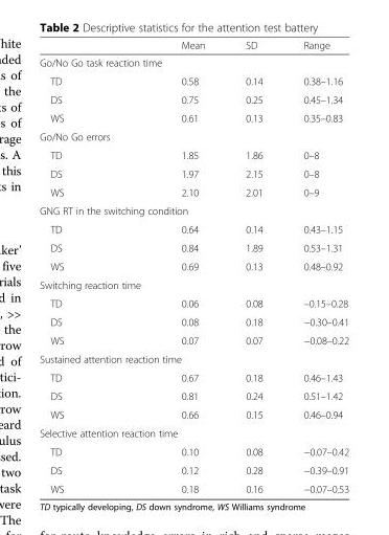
<table><thead><tr><td></td><td>Mean</td><td>SD</td><td>Range</td></tr></thead><tbody><tr><td colspan="4">Go/No Go task reaction time</td></tr><tr><td>TD</td><td>0.58</td><td>0.14</td><td>0.38–1.16</td></tr><tr><td>DS</td><td>0.75</td><td>0.25</td><td>0.45–1.34</td></tr><tr><td>WS</td><td>0.61</td><td>0.13</td><td>0.35–0.83</td></tr><tr><td colspan="4">Go/No Go errors</td></tr><tr><td>TD</td><td>1.85</td><td>1.86</td><td>0–8</td></tr><tr><td>DS</td><td>1.97</td><td>2.15</td><td>0–8</td></tr><tr><td>WS</td><td>2.10</td><td>2.01</td><td>0–9</td></tr><tr><td colspan="4">GNG RT in the switching condition</td></tr><tr><td>TD</td><td>0.64</td><td>0.14</td><td>0.43–1.15</td></tr><tr><td>DS</td><td>0.84</td><td>1.89</td><td>0.53–1.31</td></tr><tr><td>WS</td><td>0.69</td><td>0.13</td><td>0.48–0.92</td></tr><tr><td colspan="4">Switching reaction time</td></tr><tr><td>TD</td><td>0.06</td><td>0.08</td><td>–0.15–0.28</td></tr><tr><td>DS</td><td>0.08</td><td>0.18</td><td>−0.30–0.41</td></tr><tr><td>WS</td><td>0.07</td><td>0.07</td><td>−0.08–0.22</td></tr><tr><td colspan="4">Sustained attention reaction time</td></tr><tr><td>TD</td><td>0.67</td><td>0.18</td><td>0.46–1.43</td></tr><tr><td>DS</td><td>0.81</td><td>0.24</td><td>0.51–1.42</td></tr><tr><td>WS</td><td>0.66</td><td>0.15</td><td>0.46–0.94</td></tr><tr><td colspan="4">Selective attention reaction time</td></tr><tr><td>TD</td><td>0.10</td><td>0.08</td><td>−0.07–0.42</td></tr><tr><td>DS</td><td>0.12</td><td>0.28</td><td>−0.39–0.91</td></tr><tr><td>WS</td><td>0.18</td><td>0.16</td><td>−0.07–0.53</td></tr></tbody></table>